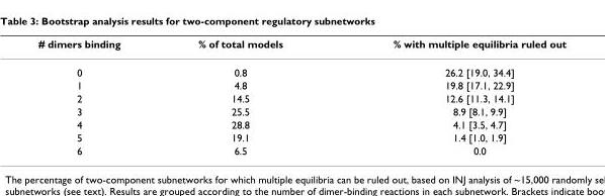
<table><thead><tr><td># dimers binding</td><td>% of total models</td><td>% with multiple equilibria ruled out</td></tr></thead><tbody><tr><td>0</td><td>0.8</td><td>26.2 [19.0, 34.4]</td></tr><tr><td>1</td><td>4.8</td><td>19.8 [17.1, 22.9]</td></tr><tr><td>2</td><td>14.5</td><td>12.6 [11.3, 14.1]</td></tr><tr><td>3</td><td>25.5</td><td>8.9 [8.1, 9.9]</td></tr><tr><td>4</td><td>28.8</td><td>4.1 [3.5, 4.7]</td></tr><tr><td>5</td><td>19.1</td><td>1.4 [1.0, 1.9]</td></tr><tr><td>6</td><td>6.5</td><td>0.0</td></tr></tbody></table>